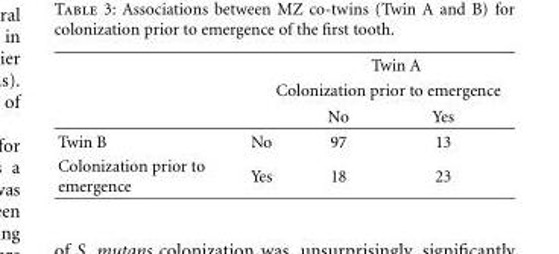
<table><thead><tr><td rowspan="3"></td><td rowspan="3"></td><td rowspan="2" colspan="2">Twin A Colonization prior to emergence</td></tr><tr></tr><tr><td>No</td><td>Yes</td></tr></thead><tbody><tr><td>Twin B</td><td>No</td><td>97</td><td>13</td></tr><tr><td>Colonization prior to emergence</td><td>Yes</td><td>18</td><td>23</td></tr></tbody></table>